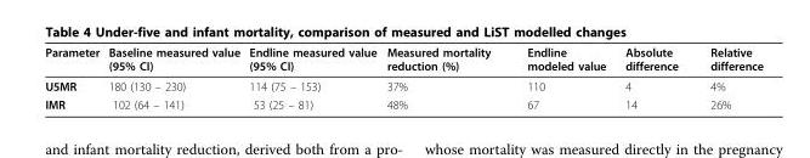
<table><thead><tr><td>Parameter</td><td>Baseline measured value (95% CI)</td><td>Endline measured value (95% CI)</td><td>Measured mortality reduction (%)</td><td>Endline modeled value</td><td>Absolute difference</td><td>Relative difference</td></tr></thead><tbody><tr><td>U5MR</td><td>180 (130 – 230)</td><td>114 (75 – 153)</td><td>37%</td><td>110</td><td>4</td><td>4%</td></tr><tr><td>IMR</td><td>102 (64 – 141)</td><td>53 (25 – 81)</td><td>48%</td><td>67</td><td>14</td><td>26%</td></tr></tbody></table>